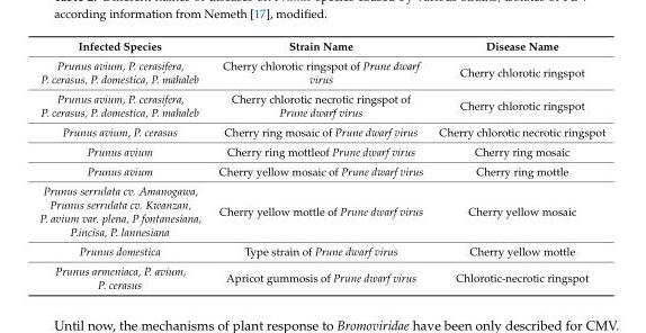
<table><thead><tr><td>Infected Species</td><td>Strain Name</td><td>Disease Name</td></tr></thead><tbody><tr><td>Prunus avium, P. cerasifera, P. cerasus, P. domestica, P. mahaleb</td><td>Cherry chlorotic ringspot of Prune dwarf virus</td><td>Cherry chlorotic ringspot</td></tr><tr><td>Prunus avium, P. cerasifera, P. cerasus, P. domestica, P. mahaleb</td><td>Cherry chlorotic necrotic ringspot of Prune dwarf virus</td><td>Cherry chlorotic ringspot</td></tr><tr><td>Prunus avium, P. cerasus</td><td>Cherry ring mosaic of Prune dwarf virus</td><td>Cherry chlorotic necrotic ringspot</td></tr><tr><td>Prunus avium</td><td>Cherry ring mottleof Prune dwarf virus</td><td>Cherry ring mosaic</td></tr><tr><td>Prunus avium</td><td>Cherry yellow mosaic of Prune dwarf virus</td><td>Cherry ring mottle</td></tr><tr><td>Prunus serrulata cv. Amanogawa, Prunus serrulata cv. Kwanzan, P. avium var. plena, P fontanesiana, P.incisa, P. lannesiana</td><td>Cherry yellow mottle of Prune dwarf virus</td><td>Cherry yellow mosaic</td></tr><tr><td>Prunus domestica</td><td>Type strain of Prune dwarf virus</td><td>Cherry yellow mottle</td></tr><tr><td>Prunus armeniaca, P. avium, P. cerasus</td><td>Apricot gummosis of Prune dwarf virus</td><td>Chlorotic-necrotic ringspot</td></tr></tbody></table>